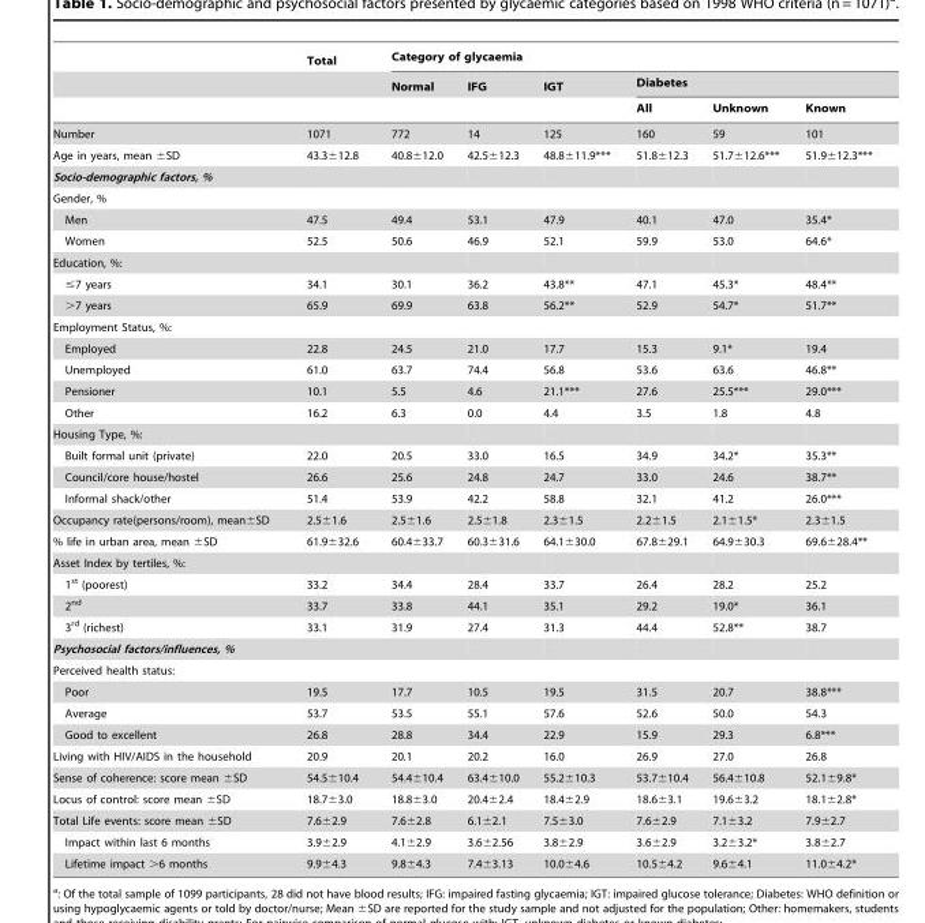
<table><thead><tr><td rowspan="3"></td><td rowspan="3">Total</td><td colspan="6">Category of glycaemia</td></tr><tr><td rowspan="2">Normal</td><td rowspan="2">IFG</td><td rowspan="2">IGT</td><td colspan="3">Diabetes</td></tr><tr><td>All</td><td>Unknown</td><td>Known</td></tr></thead><tbody><tr><td>Number</td><td>1071</td><td>772</td><td>14</td><td>125</td><td>160</td><td>59</td><td>101</td></tr><tr><td>Age in years, mean ±SD</td><td>43.3±12.8</td><td>40.8±12.0</td><td>42.5±12.3</td><td>48.8±11.9***</td><td>51.8±12.3</td><td>51.7±12.6***</td><td>51.9±12.3***</td></tr><tr><td colspan="8">Socio-demographic factors, %</td></tr><tr><td colspan="8">Gender, %</td></tr><tr><td>Men</td><td>47.5</td><td>49.4</td><td>53.1</td><td>47.9</td><td>40.1</td><td>47.0</td><td>35.4*</td></tr><tr><td>Women</td><td>52.5</td><td>50.6</td><td>46.9</td><td>52.1</td><td>59.9</td><td>53.0</td><td>64.6*</td></tr><tr><td colspan="8">Education, %:</td></tr><tr><td>≤7 years</td><td>34.1</td><td>30.1</td><td>36.2</td><td>43.8**</td><td>47.1</td><td>45.3*</td><td>48.4**</td></tr><tr><td>&gt;7 years</td><td>65.9</td><td>69.9</td><td>63.8</td><td>56.2**</td><td>52.9</td><td>54.7*</td><td>51.7**</td></tr><tr><td colspan="8">Employment Status, %:</td></tr><tr><td>Employed</td><td>22.8</td><td>24.5</td><td>21.0</td><td>17.7</td><td>15.3</td><td>9.1*</td><td>19.4</td></tr><tr><td>Unemployed</td><td>61.0</td><td>63.7</td><td>74.4</td><td>56.8</td><td>53.6</td><td>63.6</td><td>46.8**</td></tr><tr><td>Pensioner</td><td>10.1</td><td>5.5</td><td>4.6</td><td>21.1***</td><td>27.6</td><td>25.5***</td><td>29.0***</td></tr><tr><td>Other</td><td>16.2</td><td>6.3</td><td>0.0</td><td>4.4</td><td>3.5</td><td>1.8</td><td>4.8</td></tr><tr><td colspan="8">Housing Type, %:</td></tr><tr><td>Built formal unit (private)</td><td>22.0</td><td>20.5</td><td>33.0</td><td>16.5</td><td>34.9</td><td>34.2*</td><td>35.3**</td></tr><tr><td>Council/core house/hostel</td><td>26.6</td><td>25.6</td><td>24.8</td><td>24.7</td><td>33.0</td><td>24.6</td><td>38.7**</td></tr><tr><td>Informal shack/other</td><td>51.4</td><td>53.9</td><td>42.2</td><td>58.8</td><td>32.1</td><td>41.2</td><td>26.0***</td></tr><tr><td>Occupancy rate(persons/room), mean±SD</td><td>2.5±1.6</td><td>2.5±1.6</td><td>2.5±1.8</td><td>2.3±1.5</td><td>2.2±1.5</td><td>2.1±1.5*</td><td>2.3±1.5</td></tr><tr><td>% life in urban area, mean ±SD</td><td>61.9±32.6</td><td>60.4±33.7</td><td>60.3±31.6</td><td>64.1±30.0</td><td>67.8±29.1</td><td>64.9±30.3</td><td>69.6±28.4**</td></tr><tr><td colspan="8">Asset Index by tertiles, %:</td></tr><tr><td>1<sup>st</sup> (poorest)</td><td>33.2</td><td>34.4</td><td>28.4</td><td>33.7</td><td>26.4</td><td>28.2</td><td>25.2</td></tr><tr><td>2<sup>nd</sup></td><td>33.7</td><td>33.8</td><td>44.1</td><td>35.1</td><td>29.2</td><td>19.0*</td><td>36.1</td></tr><tr><td>3<sup>rd</sup> (richest)</td><td>33.1</td><td>31.9</td><td>27.4</td><td>31.3</td><td>44.4</td><td>52.8**</td><td>38.7</td></tr><tr><td colspan="8">Psychosocial factors/influences, %</td></tr><tr><td colspan="8">Perceived health status:</td></tr><tr><td>Poor</td><td>19.5</td><td>17.7</td><td>10.5</td><td>19.5</td><td>31.5</td><td>20.7</td><td>38.8***</td></tr><tr><td>Average</td><td>53.7</td><td>53.5</td><td>55.1</td><td>57.6</td><td>52.6</td><td>50.0</td><td>54.3</td></tr><tr><td>Good to excellent</td><td>26.8</td><td>28.8</td><td>34.4</td><td>22.9</td><td>15.9</td><td>29.3</td><td>6.8***</td></tr><tr><td>Living with HIV/AIDS in the household</td><td>20.9</td><td>20.1</td><td>20.2</td><td>16.0</td><td>26.9</td><td>27.0</td><td>26.8</td></tr><tr><td>Sense of coherence: score mean ±SD</td><td>54.5±10.4</td><td>54.4±10.4</td><td>63.4±10.0</td><td>55.2±10.3</td><td>53.7±10.4</td><td>56.4±10.8</td><td>52.1±9.8*</td></tr><tr><td>Locus of control: score mean ±SD</td><td>18.7±3.0</td><td>18.8±3.0</td><td>20.4±2.4</td><td>18.4±2.9</td><td>18.6±3.1</td><td>19.6±3.2</td><td>18.1±2.8*</td></tr><tr><td>Total Life events: score mean ±SD</td><td>7.6±2.9</td><td>7.6±2.8</td><td>6.1±2.1</td><td>7.5±3.0</td><td>7.6±2.9</td><td>7.1±3.2</td><td>7.9±2.7</td></tr><tr><td>Impact within last 6 months</td><td>3.9±2.9</td><td>4.1±2.9</td><td>3.6±2.56</td><td>3.8±2.9</td><td>3.6±2.9</td><td>3.2±3.2*</td><td>3.8±2.7</td></tr><tr><td>Lifetime impact &gt;6 months</td><td>9.9±4.3</td><td>9.8±4.3</td><td>7.4±3.13</td><td>10.0±4.6</td><td>10.5±4.2</td><td>9.6±4.1</td><td>11.0±4.2*</td></tr></tbody></table>